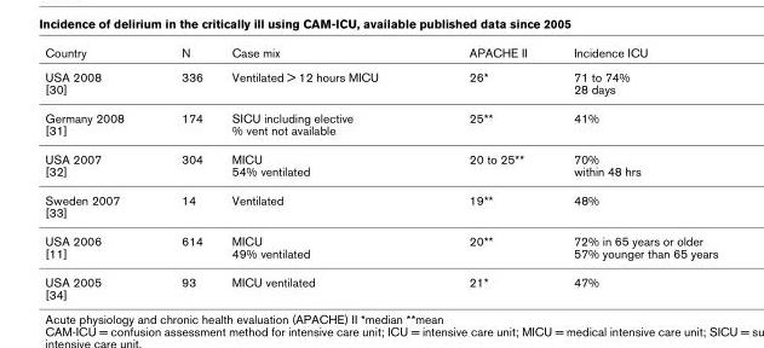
<table><thead><tr><td>Country</td><td>N</td><td>Case mix</td><td>APACHE II</td><td>Incidence ICU</td></tr></thead><tbody><tr><td>USA 2008 [30]</td><td>336</td><td>Ventilated &gt; 12 hours MICU</td><td>26*</td><td>71 to 74% 28 days</td></tr><tr><td>Germany 2008 [31]</td><td>174</td><td>SICU including elective % vent not available</td><td>25**</td><td>41%</td></tr><tr><td>USA 2007 [32]</td><td>304</td><td>MICU 54% ventilated</td><td>20 to 25**</td><td>70% within 48 hrs</td></tr><tr><td>Sweden 2007 [33]</td><td>14</td><td>Ventilated</td><td>19**</td><td>48%</td></tr><tr><td>USA 2006 [11]</td><td>614</td><td>MICU 49% ventilated</td><td>20**</td><td>72% in 65 years or older 57% younger than 65 years</td></tr><tr><td>USA 2005 [34]</td><td>93</td><td>MICU ventilated</td><td>21*</td><td>47%</td></tr></tbody></table>